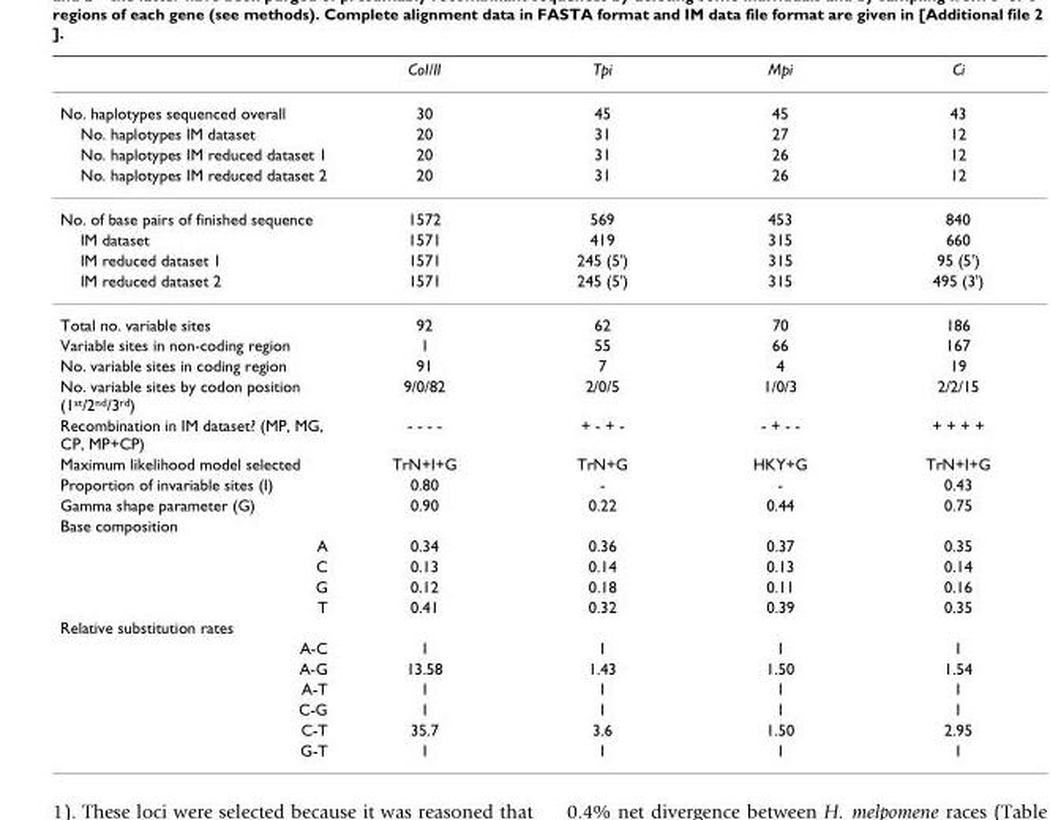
<table><thead><tr><td></td><td>CoI/II</td><td>Tpi</td><td>Mpi</td><td>Ci</td></tr></thead><tbody><tr><td>No. haplotypes sequenced overall</td><td>30</td><td>45</td><td>45</td><td>43</td></tr><tr><td>No. haplotypes IM dataset</td><td>20</td><td>31</td><td>27</td><td>12</td></tr><tr><td>No. haplotypes IM reduced dataset 1</td><td>20</td><td>31</td><td>26</td><td>12</td></tr><tr><td>No. haplotypes IM reduced dataset 2</td><td>20</td><td>31</td><td>26</td><td>12</td></tr><tr><td>No. of base pairs of finished sequence</td><td>1572</td><td>569</td><td>453</td><td>840</td></tr><tr><td>IM dataset</td><td>1571</td><td>419</td><td>315</td><td>660</td></tr><tr><td>IM reduced dataset 1</td><td>1571</td><td>245 (5&#x27;)</td><td>315</td><td>95 (5&#x27;)</td></tr><tr><td>IM reduced dataset 2</td><td>1571</td><td>245 (5&#x27;)</td><td>315</td><td>495 (3&#x27;)</td></tr><tr><td>Total no. variable sites</td><td>92</td><td>62</td><td>70</td><td>186</td></tr><tr><td>Variable sites in non-coding region</td><td>1</td><td>55</td><td>66</td><td>167</td></tr><tr><td>No. variable sites in coding region</td><td>91</td><td>7</td><td>4</td><td>19</td></tr><tr><td>No. variable sites by codon position (1st/2nd/3rd)</td><td>9/0/82</td><td>2/0/5</td><td>1/0/3</td><td>2/2/15</td></tr><tr><td>Recombination in IM dataset? (MP, MG, CP, MP+CP)</td><td>- - - -</td><td>+ - + -</td><td>- + - -</td><td>+ + + +</td></tr><tr><td>Maximum likelihood model selected</td><td>TrN+I+G</td><td>TrN+G</td><td>HKY+G</td><td>TrN+I+G</td></tr><tr><td>Proportion of invariable sites (I)</td><td>0.80</td><td>-</td><td>-</td><td>0.43</td></tr><tr><td>Gamma shape parameter (G)</td><td>0.90</td><td>0.22</td><td>0.44</td><td>0.75</td></tr><tr><td colspan="5">Base composition</td></tr><tr><td>A</td><td>0.34</td><td>0.36</td><td>0.37</td><td>0.35</td></tr><tr><td>C</td><td>0.13</td><td>0.14</td><td>0.13</td><td>0.14</td></tr><tr><td>G</td><td>0.12</td><td>0.18</td><td>0.11</td><td>0.16</td></tr><tr><td>T</td><td>0.41</td><td>0.32</td><td>0.39</td><td>0.35</td></tr><tr><td colspan="5">Relative substitution rates</td></tr><tr><td>A-C</td><td>1</td><td>1</td><td>1</td><td>1</td></tr><tr><td>A-G</td><td>13.58</td><td>1.43</td><td>1.50</td><td>1.54</td></tr><tr><td>A-T</td><td>1</td><td>1</td><td>1</td><td>1</td></tr><tr><td>C-G</td><td>1</td><td>1</td><td>1</td><td>1</td></tr><tr><td>C-T</td><td>35.7</td><td>3.6</td><td>1.50</td><td>2.95</td></tr><tr><td>G-T</td><td>1</td><td>1</td><td>1</td><td>1</td></tr></tbody></table>